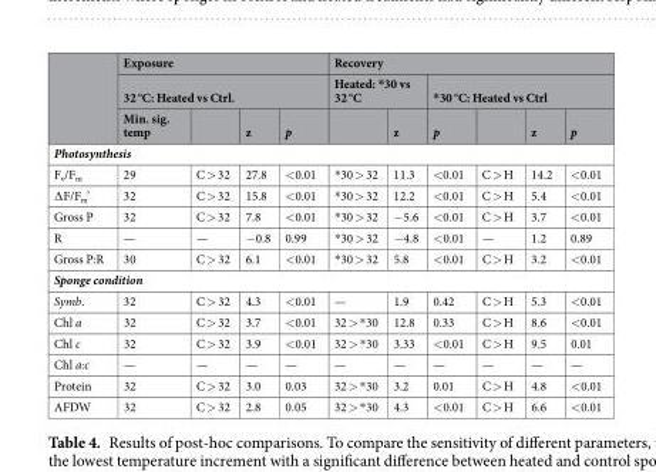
<table><thead><tr><td rowspan="3"></td><td rowspan="2" colspan="4">Exposure 32 °C: Heated vs Ctrl.</td><td colspan="6">Recovery</td></tr><tr><td colspan="2">Heated: *30 vs 32 °C</td><td colspan="4">*30 °C: Heated vs Ctrl</td></tr><tr><td>Min. sig. temp</td><td></td><td>z</td><td>p</td><td></td><td>z</td><td>p</td><td></td><td>z</td><td>p</td></tr></thead><tbody><tr><td colspan="11">Photosynthesis</td></tr><tr><td>F<sub>v</sub>/F<sub>m</sub></td><td>29</td><td>C &gt; 32</td><td>27.8</td><td>&lt;0.01</td><td>*30 &gt; 32</td><td>11.3</td><td>&lt;0.01</td><td>C &gt; H</td><td>14.2</td><td>&lt;0.01</td></tr><tr><td>∆F/F<sub>m</sub>’</td><td>32</td><td>C &gt; 32</td><td>15.8</td><td>&lt;0.01</td><td>*30 &gt; 32</td><td>12.2</td><td>&lt;0.01</td><td>C &gt; H</td><td>5.4</td><td>&lt;0.01</td></tr><tr><td>Gross P</td><td>32</td><td>C &gt; 32</td><td>7.8</td><td>&lt;0.01</td><td>*30 &gt; 32</td><td>−5.6</td><td>&lt;0.01</td><td>C &gt; H</td><td>3.7</td><td>&lt;0.01</td></tr><tr><td>R</td><td>—</td><td>—</td><td>−0.8</td><td>0.99</td><td>*30 &gt; 32</td><td>−4.8</td><td>&lt;0.01</td><td>—</td><td>1.2</td><td>0.89</td></tr><tr><td>Gross P:R</td><td>30</td><td>C &gt; 32</td><td>6.1</td><td>&lt;0.01</td><td>*30 &gt; 32</td><td>5.8</td><td>&lt;0.01</td><td>C &gt; H</td><td>3.2</td><td>&lt;0.01</td></tr><tr><td colspan="11">Sponge condition</td></tr><tr><td>Symb.</td><td>32</td><td>C &gt; 32</td><td>4.3</td><td>&lt;0.01</td><td>—</td><td>1.9</td><td>0.42</td><td>C &gt; H</td><td>5.3</td><td>&lt;0.01</td></tr><tr><td>Chl a</td><td>32</td><td>C &gt; 32</td><td>3.7</td><td>&lt;0.01</td><td>32 &gt; *30</td><td>12.8</td><td>0.33</td><td>C &gt; H</td><td>8.6</td><td>&lt;0.01</td></tr><tr><td>Chl c</td><td>32</td><td>C &gt; 32</td><td>3.9</td><td>&lt;0.01</td><td>32 &gt; *30</td><td>3.33</td><td>&lt;0.01</td><td>C &gt; H</td><td>9.5</td><td>0.01</td></tr><tr><td>Chl a:c</td><td>—</td><td>—</td><td>—</td><td>—</td><td>—</td><td>—</td><td>—</td><td>—</td><td>—</td><td>—</td></tr><tr><td>Protein</td><td>32</td><td>C &gt; 32</td><td>3.0</td><td>0.03</td><td>32 &gt; *30</td><td>3.2</td><td>0.01</td><td>C &gt; H</td><td>4.8</td><td>&lt;0.01</td></tr><tr><td>AFDW</td><td>32</td><td>C &gt; 32</td><td>2.8</td><td>0.05</td><td>32 &gt; *30</td><td>4.3</td><td>&lt;0.01</td><td>C &gt; H</td><td>6.6</td><td>&lt;0.01</td></tr></tbody></table>